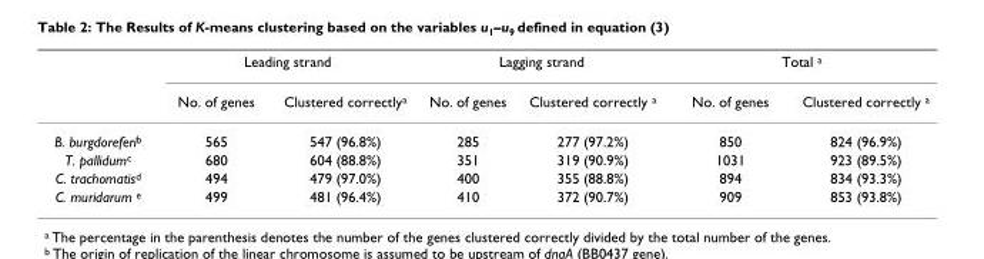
<table><thead><tr><td rowspan="2"></td><td colspan="2">Leading strand</td><td colspan="2">Lagging strand</td><td colspan="2">Total <sup>a</sup></td></tr><tr><td>No. of genes</td><td>Clustered correctly<sup>a</sup></td><td>No. of genes</td><td>Clustered correctly <sup>a</sup></td><td>No. of genes</td><td>Clustered correctly <sup>a</sup></td></tr></thead><tbody><tr><td>B. burgdoreferi<sup>b</sup></td><td>565</td><td>547 (96.8%)</td><td>285</td><td>277 (97.2%)</td><td>850</td><td>824 (96.9%)</td></tr><tr><td>T. pallidum<sup>c</sup></td><td>680</td><td>604 (88.8%)</td><td>351</td><td>319 (90.9%)</td><td>1031</td><td>923 (89.5%)</td></tr><tr><td>C. trachomatis<sup>d</sup></td><td>494</td><td>479 (97.0%)</td><td>400</td><td>355 (88.8%)</td><td>894</td><td>834 (93.3%)</td></tr><tr><td>C. muridarum <sup>e</sup></td><td>499</td><td>481 (96.4%)</td><td>410</td><td>372 (90.7%)</td><td>909</td><td>853 (93.8%)</td></tr></tbody></table>